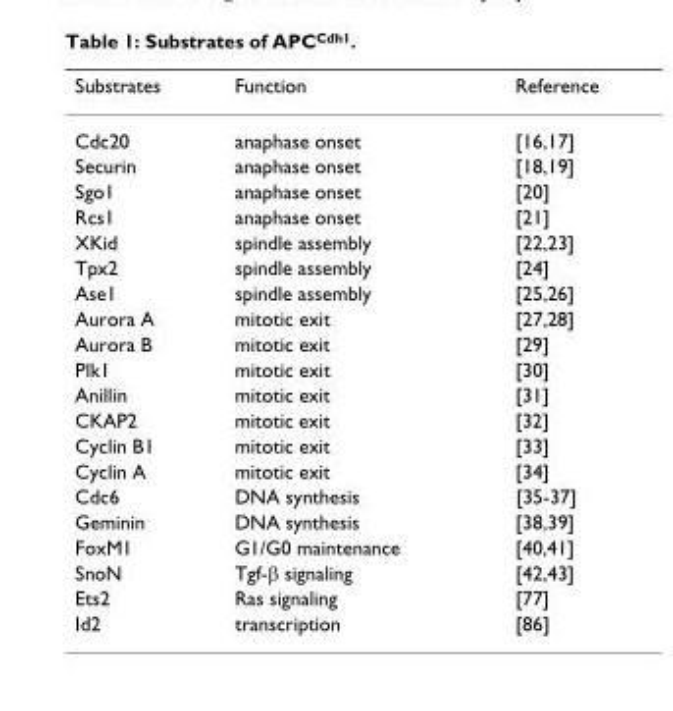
<table><thead><tr><td>Substrates</td><td>Function</td><td>Reference</td></tr></thead><tbody><tr><td>Cdc20</td><td>anaphase onset</td><td>[16,17]</td></tr><tr><td>Securin</td><td>anaphase onset</td><td>[18,19]</td></tr><tr><td>Sgo1</td><td>anaphase onset</td><td>[20]</td></tr><tr><td>Rcs1</td><td>anaphase onset</td><td>[21]</td></tr><tr><td>XKid</td><td>spindle assembly</td><td>[22,23]</td></tr><tr><td>Tpx2</td><td>spindle assembly</td><td>[24]</td></tr><tr><td>Ase1</td><td>spindle assembly</td><td>[25,26]</td></tr><tr><td>Aurora A</td><td>mitotic exit</td><td>[27,28]</td></tr><tr><td>Aurora B</td><td>mitotic exit</td><td>[29]</td></tr><tr><td>Plk1</td><td>mitotic exit</td><td>[30]</td></tr><tr><td>Anillin</td><td>mitotic exit</td><td>[31]</td></tr><tr><td>CKAP2</td><td>mitotic exit</td><td>[32]</td></tr><tr><td>Cyclin B1</td><td>mitotic exit</td><td>[33]</td></tr><tr><td>Cyclin A</td><td>mitotic exit</td><td>[34]</td></tr><tr><td>Cdc6</td><td>DNA synthesis</td><td>[35-37]</td></tr><tr><td>Geminin</td><td>DNA synthesis</td><td>[38,39]</td></tr><tr><td>FoxM1</td><td>G1/G0 maintenance</td><td>[40,41]</td></tr><tr><td>SnoN</td><td>Tgf-β signaling</td><td>[42,43]</td></tr><tr><td>Ets2</td><td>Ras signaling</td><td>[77]</td></tr><tr><td>Id2</td><td>transcription</td><td>[86]</td></tr></tbody></table>